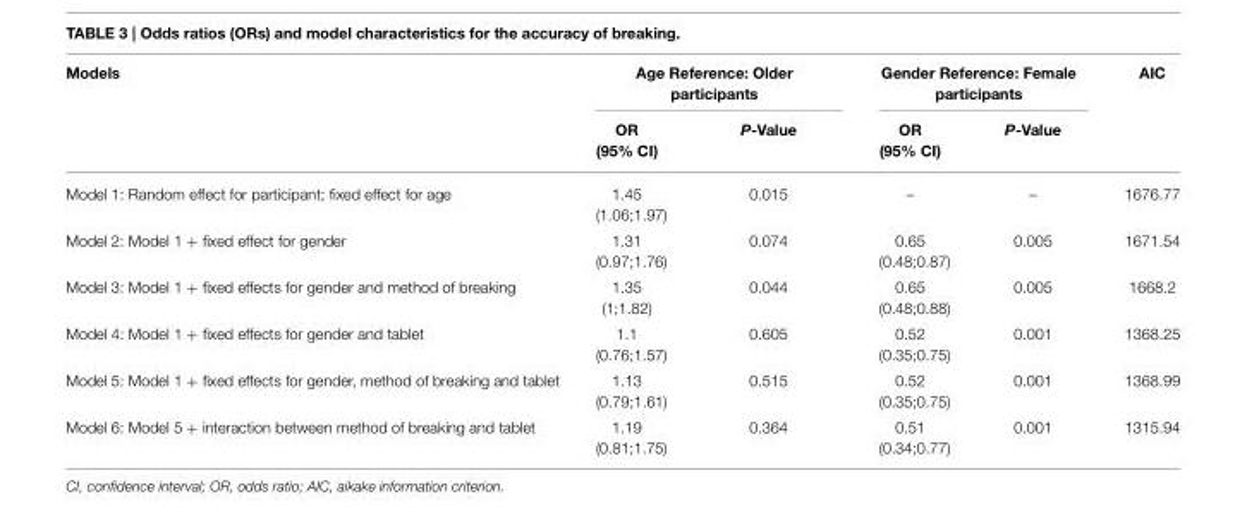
<table><thead><tr><td rowspan="2">Models</td><td colspan="2">Age Reference: Older participants</td><td colspan="2">Gender Reference: Female participants</td><td rowspan="2">AIC</td></tr><tr><td>OR (95% CI)</td><td>P-Value</td><td>OR (95% CI)</td><td>P-Value</td></tr></thead><tbody><tr><td>Model 1: Random effect for participant; fixed effect for age</td><td>1.45 (1.06;1.97)</td><td>0.015</td><td>–</td><td>–</td><td>1676.77</td></tr><tr><td>Model 2: Model 1 + fixed effect for gender</td><td>1.31 (0.97;1.76)</td><td>0.074</td><td>0.65 (0.48;0.87)</td><td>0.005</td><td>1671.54</td></tr><tr><td>Model 3: Model 1 + fixed effects for gender and method of breaking</td><td>1.35 (1;1.82)</td><td>0.044</td><td>0.65 (0.48;0.88)</td><td>0.005</td><td>1668.2</td></tr><tr><td>Model 4: Model 1 + fixed effects for gender and tablet</td><td>1.1 (0.76;1.57)</td><td>0.605</td><td>0.52 (0.35;0.75)</td><td>0.001</td><td>1368.25</td></tr><tr><td>Model 5: Model 1 + fixed effects for gender, method of breaking and tablet</td><td>1.13 (0.79;1.61)</td><td>0.515</td><td>0.52 (0.35;0.75)</td><td>0.001</td><td>1368.99</td></tr><tr><td>Model 6: Model 5 + interaction between method of breaking and tablet</td><td>1.19 (0.81;1.75)</td><td>0.364</td><td>0.51 (0.34;0.77)</td><td>0.001</td><td>1315.94</td></tr></tbody></table>